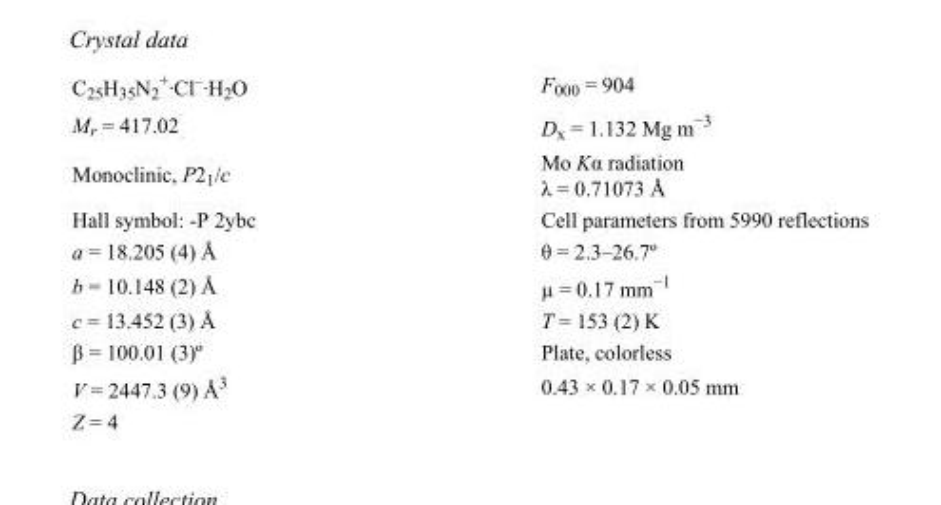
<table><tbody><tr><td>C<sub>25</sub>H<sub>35</sub>N<sub>2</sub> <sup>+</sup>·Cl<sup>–</sup>·H<sub>2</sub>O</td><td>F000 = 904</td></tr><tr><td>M<sub>r</sub> = 417.02</td><td>D<sub>x</sub> = 1.132 Mg m<sup>−3</sup></td></tr><tr><td>Monoclinic, P2<sub>1</sub>/c</td><td>Mo Kα radiation λ = 0.71073 Å</td></tr><tr><td>Hall symbol: -P 2ybc</td><td>Cell parameters from 5990 reflections</td></tr><tr><td>a = 18.205 (4) Å</td><td>θ = 2.3–26.7º</td></tr><tr><td>b = 10.148 (2) Å</td><td>µ = 0.17 mm<sup>−1</sup></td></tr><tr><td>c = 13.452 (3) Å</td><td>T = 153 (2) K</td></tr><tr><td>β = 100.01 (3)º</td><td>Plate, colorless</td></tr><tr><td>V = 2447.3 (9) Å<sup>3</sup></td><td>0.43 × 0.17 × 0.05 mm</td></tr><tr><td>Z = 4</td><td></td></tr></tbody></table>